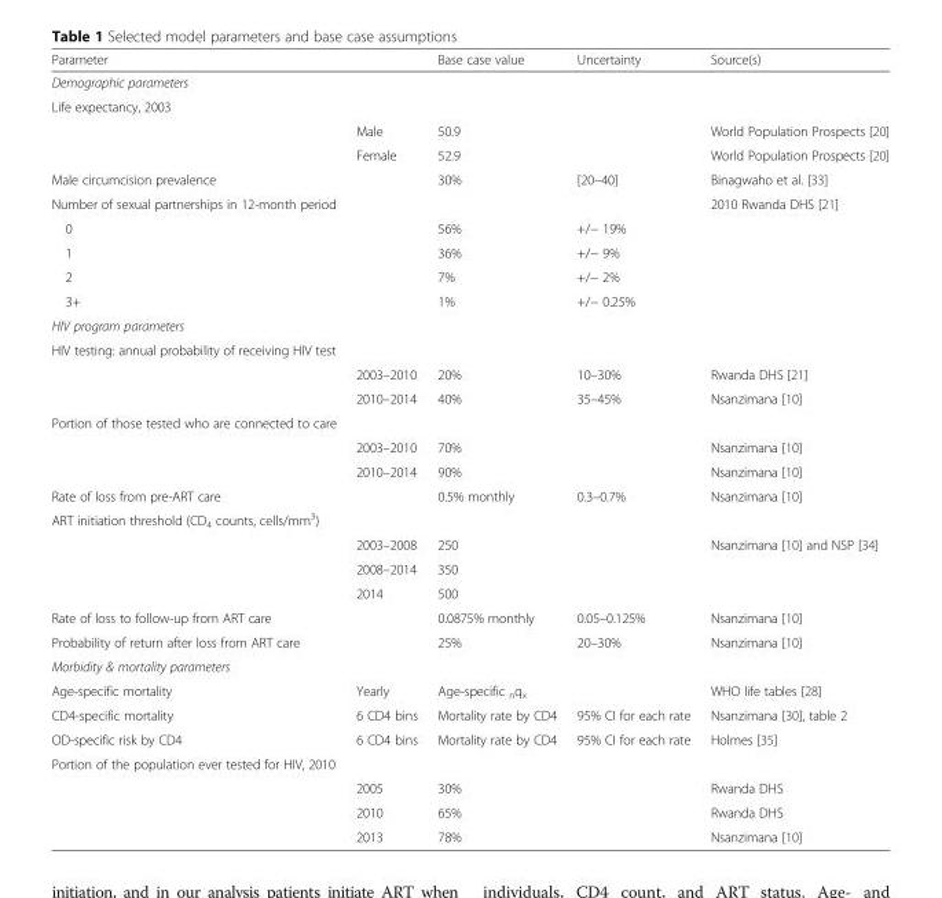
<table><thead><tr><td>Parameter</td><td></td><td>Base case value</td><td>Uncertainty</td><td>Source(s)</td></tr></thead><tbody><tr><td colspan="5">Demographic parameters</td></tr><tr><td colspan="5">Life expectancy, 2003</td></tr><tr><td></td><td>Male</td><td>50.9</td><td></td><td>World Population Prospects [20]</td></tr><tr><td></td><td>Female</td><td>52.9</td><td></td><td>World Population Prospects [20]</td></tr><tr><td>Male circumcision prevalence</td><td></td><td>30%</td><td>[20–40]</td><td>Binagwaho et al. [33]</td></tr><tr><td>Number of sexual partnerships in 12-month period</td><td></td><td></td><td></td><td>2010 Rwanda DHS [21]</td></tr><tr><td>0</td><td></td><td>56%</td><td>+/− 19%</td><td></td></tr><tr><td>1</td><td></td><td>36%</td><td>+/− 9%</td><td></td></tr><tr><td>2</td><td></td><td>7%</td><td>+/− 2%</td><td></td></tr><tr><td>3+</td><td></td><td>1%</td><td>+/− 0.25%</td><td></td></tr><tr><td colspan="5">HIV program parameters</td></tr><tr><td colspan="5">HIV testing: annual probability of receiving HIV test</td></tr><tr><td></td><td>2003–2010</td><td>20%</td><td>10–30%</td><td>Rwanda DHS [21]</td></tr><tr><td></td><td>2010–2014</td><td>40%</td><td>35–45%</td><td>Nsanzimana [10]</td></tr><tr><td colspan="5">Portion of those tested who are connected to care</td></tr><tr><td></td><td>2003–2010</td><td>70%</td><td></td><td>Nsanzimana [10]</td></tr><tr><td></td><td>2010–2014</td><td>90%</td><td></td><td>Nsanzimana [10]</td></tr><tr><td>Rate of loss from pre-ART care</td><td></td><td>0.5% monthly</td><td>0.3–0.7%</td><td>Nsanzimana [10]</td></tr><tr><td colspan="5">ART initiation threshold (CD<sub>4</sub> counts, cells/mm<sup>3</sup>)</td></tr><tr><td></td><td>2003–2008</td><td>250</td><td></td><td>Nsanzimana [10] and NSP [34]</td></tr><tr><td></td><td>2008–2014</td><td>350</td><td></td><td></td></tr><tr><td></td><td>2014</td><td>500</td><td></td><td></td></tr><tr><td>Rate of loss to follow-up from ART care</td><td></td><td>0.0875% monthly</td><td>0.05–0.125%</td><td>Nsanzimana [10]</td></tr><tr><td>Probability of return after loss from ART care</td><td></td><td>25%</td><td>20–30%</td><td>Nsanzimana [10]</td></tr><tr><td colspan="5">Morbidity &amp; mortality parameters</td></tr><tr><td>Age-specific mortality</td><td>Yearly</td><td>Age-specific <sub>n</sub>q<sub>x</sub></td><td></td><td>WHO life tables [28]</td></tr><tr><td>CD4-specific mortality</td><td>6 CD4 bins</td><td>Mortality rate by CD4</td><td>95% CI for each rate</td><td>Nsanzimana [30], table 2</td></tr><tr><td>OD-specific risk by CD4</td><td>6 CD4 bins</td><td>Mortality rate by CD4</td><td>95% CI for each rate</td><td>Holmes [35]</td></tr><tr><td colspan="5">Portion of the population ever tested for HIV, 2010</td></tr><tr><td></td><td>2005</td><td>30%</td><td></td><td>Rwanda DHS</td></tr><tr><td></td><td>2010</td><td>65%</td><td></td><td>Rwanda DHS</td></tr><tr><td></td><td>2013</td><td>78%</td><td></td><td>Nsanzimana [10]</td></tr></tbody></table>